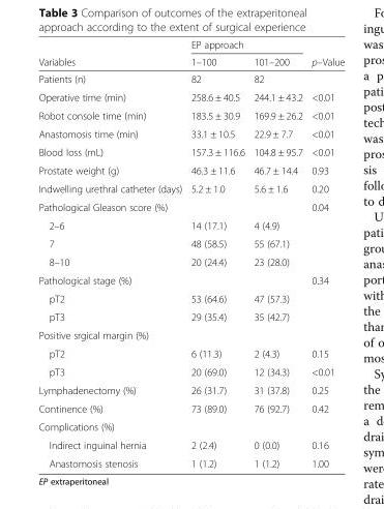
<table><thead><tr><td rowspan="2">Variables</td><td colspan="2">EP approach</td><td rowspan="2">p–Value</td></tr><tr><td>1–100</td><td>101–200</td></tr></thead><tbody><tr><td>Patients (n)</td><td>82</td><td>82</td><td></td></tr><tr><td>Operative time (min)</td><td>258.6 ± 40.5</td><td>244.1 ± 43.2</td><td>&lt;0.01</td></tr><tr><td>Robot console time (min)</td><td>183.5 ± 30.9</td><td>169.9 ± 26.2</td><td>&lt;0.01</td></tr><tr><td>Anastomosis time (min)</td><td>33.1 ± 10.5</td><td>22.9 ± 7.7</td><td>&lt;0.01</td></tr><tr><td>Blood loss (mL)</td><td>157.3 ± 116.6</td><td>104.8 ± 95.7</td><td>&lt;0.01</td></tr><tr><td>Prostate weight (g)</td><td>46.3 ± 11.6</td><td>46.7 ± 14.4</td><td>0.93</td></tr><tr><td>Indwelling urethral catheter (days)</td><td>5.2 ± 1.0</td><td>5.6 ± 1.6</td><td>0.20</td></tr><tr><td>Pathological Gleason score (%)</td><td></td><td></td><td>0.04</td></tr><tr><td>2–6</td><td>14 (17.1)</td><td>4 (4.9)</td><td></td></tr><tr><td>7</td><td>48 (58.5)</td><td>55 (67.1)</td><td></td></tr><tr><td>8–10</td><td>20 (24.4)</td><td>23 (28.0)</td><td></td></tr><tr><td>Pathological stage (%)</td><td></td><td></td><td>0.34</td></tr><tr><td>pT2</td><td>53 (64.6)</td><td>47 (57.3)</td><td></td></tr><tr><td>pT3</td><td>29 (35.4)</td><td>35 (42.7)</td><td></td></tr><tr><td colspan="4">Positive srgical margin (%)</td></tr><tr><td>pT2</td><td>6 (11.3)</td><td>2 (4.3)</td><td>0.15</td></tr><tr><td>pT3</td><td>20 (69.0)</td><td>12 (34.3)</td><td>&lt;0.01</td></tr><tr><td>Lymphadenectomy (%)</td><td>26 (31.7)</td><td>31 (37.8)</td><td>0.25</td></tr><tr><td>Continence (%)</td><td>73 (89.0)</td><td>76 (92.7)</td><td>0.42</td></tr><tr><td colspan="4">Complications (%)</td></tr><tr><td>Indirect inguinal hernia</td><td>2 (2.4)</td><td>0 (0.0)</td><td>0.16</td></tr><tr><td>Anastomosis stenosis</td><td>1 (1.2)</td><td>1 (1.2)</td><td>1.00</td></tr></tbody></table>